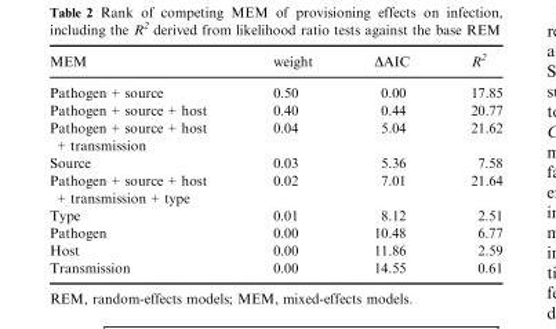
<table><thead><tr><td>MEM</td><td>weight</td><td>ΔAIC</td><td>R<sup>2</sup></td></tr></thead><tbody><tr><td>Pathogen + source</td><td>0.50</td><td>0.00</td><td>17.85</td></tr><tr><td>Pathogen + source + host</td><td>0.40</td><td>0.44</td><td>20.77</td></tr><tr><td>Pathogen + source + host + transmission</td><td>0.04</td><td>5.04</td><td>21.62</td></tr><tr><td>Source</td><td>0.03</td><td>5.36</td><td>7.58</td></tr><tr><td>Pathogen + source + host + transmission + type</td><td>0.02</td><td>7.01</td><td>21.64</td></tr><tr><td>Type</td><td>0.01</td><td>8.12</td><td>2.51</td></tr><tr><td>Pathogen</td><td>0.00</td><td>10.48</td><td>6.77</td></tr><tr><td>Host</td><td>0.00</td><td>11.86</td><td>2.59</td></tr><tr><td>Transmission</td><td>0.00</td><td>14.55</td><td>0.61</td></tr></tbody></table>